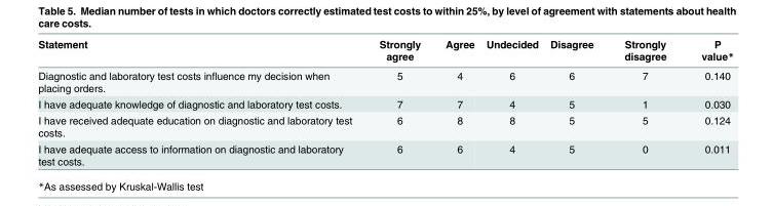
<table><thead><tr><td>Statement</td><td>Strongly agree</td><td>Agree</td><td>Undecided</td><td>Disagree</td><td>Strongly disagree</td><td>P value*</td></tr></thead><tbody><tr><td>Diagnostic and laboratory test costs influence my decision when placing orders.</td><td>5</td><td>4</td><td>6</td><td>6</td><td>7</td><td>0.140</td></tr><tr><td>I have adequate knowledge of diagnostic and laboratory test costs.</td><td>7</td><td>7</td><td>4</td><td>5</td><td>1</td><td>0.030</td></tr><tr><td>I have received adequate education on diagnostic and laboratory test costs.</td><td>6</td><td>8</td><td>8</td><td>5</td><td>5</td><td>0.124</td></tr><tr><td>I have adequate access to information on diagnostic and laboratory test costs.</td><td>6</td><td>6</td><td>4</td><td>5</td><td>0</td><td>0.011</td></tr></tbody></table>